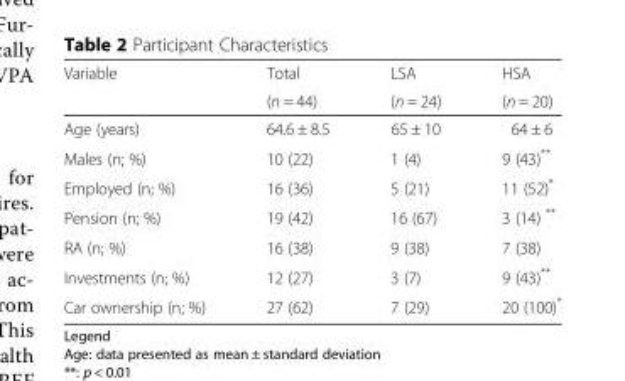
<table><thead><tr><td rowspan="2">Variable</td><td rowspan="2">Total (n = 44)</td><td rowspan="2">LSA (n = 24)</td><td rowspan="2">HSA (n = 20)</td></tr><tr></tr></thead><tbody><tr><td>Age (years)</td><td>64.6 ± 8.5</td><td>65 ± 10</td><td>64 ± 6</td></tr><tr><td>Males (n; %)</td><td>10 (22)</td><td>1 (4)</td><td>9 (43)**</td></tr><tr><td>Employed (n; %)</td><td>16 (36)</td><td>5 (21)</td><td>11 (52)*</td></tr><tr><td>Pension (n; %)</td><td>19 (42)</td><td>16 (67)</td><td>3 (14) **</td></tr><tr><td>RA (n; %)</td><td>16 (38)</td><td>9 (38)</td><td>7 (38)</td></tr><tr><td>Investments (n; %)</td><td>12 (27)</td><td>3 (7)</td><td>9 (43)**</td></tr><tr><td>Car ownership (n; %)</td><td>27 (62)</td><td>7 (29)</td><td>20 (100)*</td></tr></tbody></table>